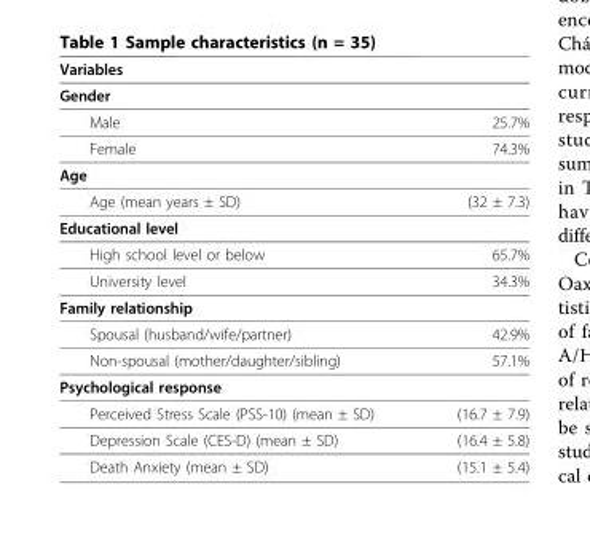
<table><thead><tr><td>Variables</td><td></td></tr></thead><tbody><tr><td colspan="2">Gender</td></tr><tr><td>Male</td><td>25.7%</td></tr><tr><td>Female</td><td>74.3%</td></tr><tr><td colspan="2">Age</td></tr><tr><td>Age (mean years ± SD)</td><td>(32 ± 7.3)</td></tr><tr><td colspan="2">Educational level</td></tr><tr><td>High school level or below</td><td>65.7%</td></tr><tr><td>University level</td><td>34.3%</td></tr><tr><td colspan="2">Family relationship</td></tr><tr><td>Spousal (husband/wife/partner)</td><td>42.9%</td></tr><tr><td>Non-spousal (mother/daughter/sibling)</td><td>57.1%</td></tr><tr><td colspan="2">Psychological response</td></tr><tr><td>Perceived Stress Scale (PSS-10) (mean ± SD)</td><td>(16.7 ± 7.9)</td></tr><tr><td>Depression Scale (CES-D) (mean ± SD)</td><td>(16.4 ± 5.8)</td></tr><tr><td>Death Anxiety (mean ± SD)</td><td>(15.1 ± 5.4)</td></tr></tbody></table>